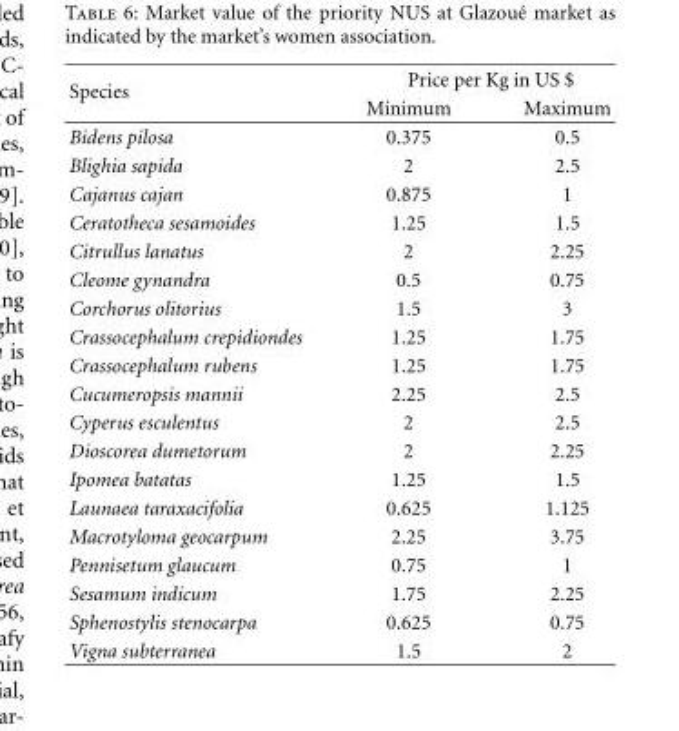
<table><thead><tr><td rowspan="2">Species</td><td colspan="2">Price per Kg in US $</td></tr><tr><td>Minimum</td><td>Maximum</td></tr></thead><tbody><tr><td>Bidens pilosa</td><td>0.375</td><td>0.5</td></tr><tr><td>Blighia sapida</td><td>2</td><td>2.5</td></tr><tr><td>Cajanus cajan</td><td>0.875</td><td>1</td></tr><tr><td>Ceratotheca sesamoides</td><td>1.25</td><td>1.5</td></tr><tr><td>Citrullus lanatus</td><td>2</td><td>2.25</td></tr><tr><td>Cleome gynandra</td><td>0.5</td><td>0.75</td></tr><tr><td>Corchorus olitorius</td><td>1.5</td><td>3</td></tr><tr><td>Crassocephalum crepidiondes</td><td>1.25</td><td>1.75</td></tr><tr><td>Crassocephalum rubens</td><td>1.25</td><td>1.75</td></tr><tr><td>Cucumeropsis mannii</td><td>2.25</td><td>2.5</td></tr><tr><td>Cyperus esculentus</td><td>2</td><td>2.5</td></tr><tr><td>Dioscorea dumetorum</td><td>2</td><td>2.25</td></tr><tr><td>Ipomea batatas</td><td>1.25</td><td>1.5</td></tr><tr><td>Launaea taraxacifolia</td><td>0.625</td><td>1.125</td></tr><tr><td>Macrotyloma geocarpum</td><td>2.25</td><td>3.75</td></tr><tr><td>Pennisetum glaucum</td><td>0.75</td><td>1</td></tr><tr><td>Sesamum indicum</td><td>1.75</td><td>2.25</td></tr><tr><td>Sphenostylis stenocarpa</td><td>0.625</td><td>0.75</td></tr><tr><td>Vigna subterranea</td><td>1.5</td><td>2</td></tr></tbody></table>